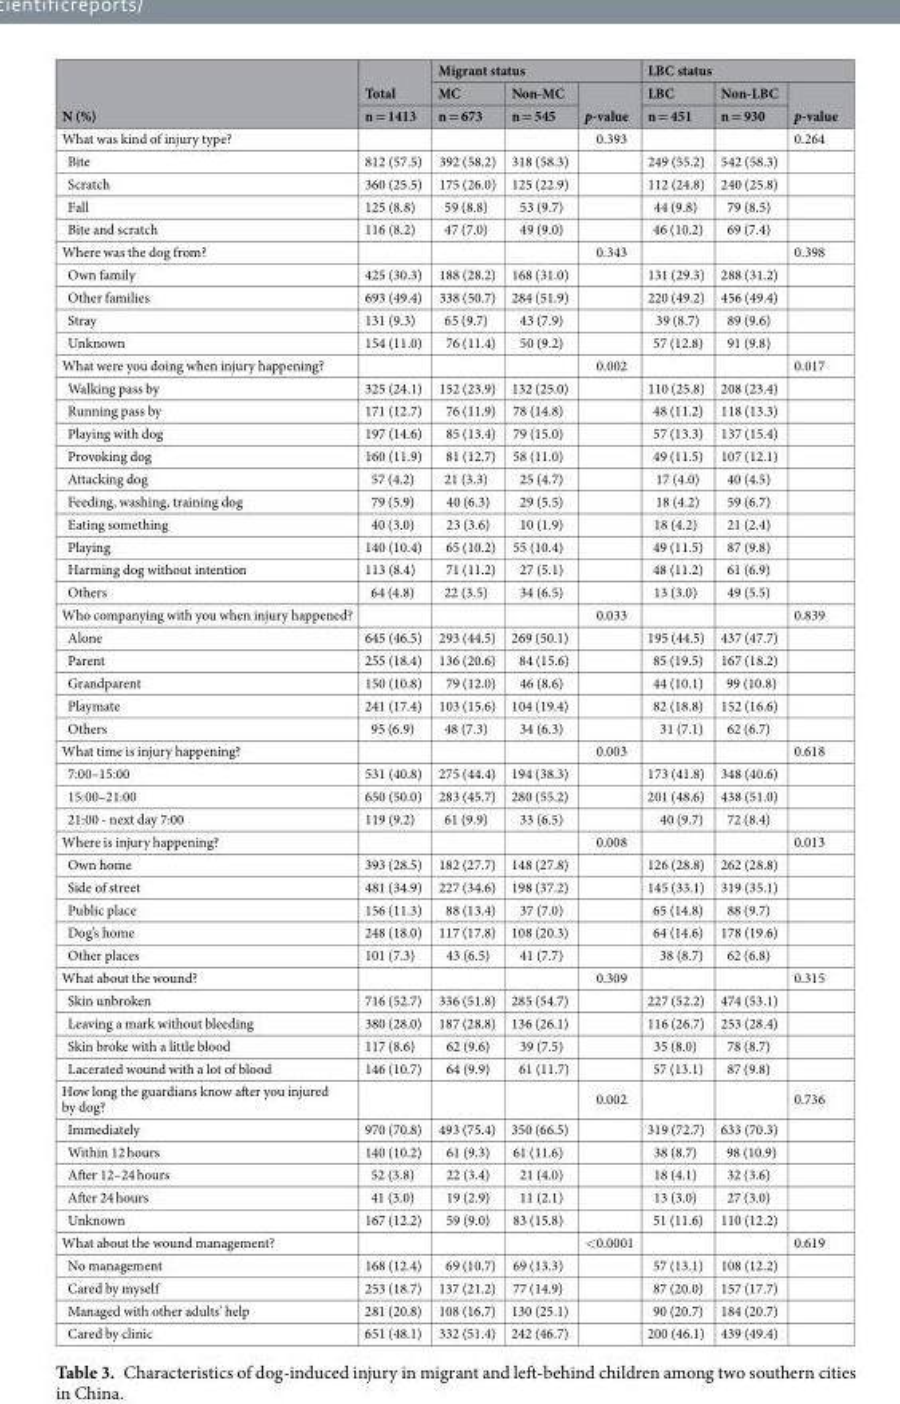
<table><thead><tr><td rowspan="3">N (%)</td><td rowspan="3">Total n = 1413</td><td colspan="3">Migrant status</td><td colspan="3">LBC status</td></tr><tr><td rowspan="2">MC n = 673</td><td rowspan="2">Non-MC n = 545</td><td rowspan="2">p-value</td><td rowspan="2">LBC n = 451</td><td rowspan="2">Non-LBC n = 930</td><td rowspan="2">p-value</td></tr><tr></tr></thead><tbody><tr><td>What was kind of injury type?</td><td></td><td></td><td></td><td>0.393</td><td></td><td></td><td>0.264</td></tr><tr><td>Bite</td><td>812 (57.5)</td><td>392 (58.2)</td><td>318 (58.3)</td><td></td><td>249 (55.2)</td><td>542 (58.3)</td><td></td></tr><tr><td>Scratch</td><td>360 (25.5)</td><td>175 (26.0)</td><td>125 (22.9)</td><td></td><td>112 (24.8)</td><td>240 (25.8)</td><td></td></tr><tr><td>Fall</td><td>125 (8.8)</td><td>59 (8.8)</td><td>53 (9.7)</td><td></td><td>44 (9.8)</td><td>79 (8.5)</td><td></td></tr><tr><td>Bite and scratch</td><td>116 (8.2)</td><td>47 (7.0)</td><td>49 (9.0)</td><td></td><td>46 (10.2)</td><td>69 (7.4)</td><td></td></tr><tr><td>Where was the dog from?</td><td></td><td></td><td></td><td>0.343</td><td></td><td></td><td>0.398</td></tr><tr><td>Own family</td><td>425 (30.3)</td><td>188 (28.2)</td><td>168 (31.0)</td><td></td><td>131 (29.3)</td><td>288 (31.2)</td><td></td></tr><tr><td>Other families</td><td>693 (49.4)</td><td>338 (50.7)</td><td>284 (51.9)</td><td></td><td>220 (49.2)</td><td>456 (49.4)</td><td></td></tr><tr><td>Stray</td><td>131 (9.3)</td><td>65 (9.7)</td><td>43 (7.9)</td><td></td><td>39 (8.7)</td><td>89 (9.6)</td><td></td></tr><tr><td>Unknown</td><td>154 (11.0)</td><td>76 (11.4)</td><td>50 (9.2)</td><td></td><td>57 (12.8)</td><td>91 (9.8)</td><td></td></tr><tr><td>What were you doing when injury happening?</td><td></td><td></td><td></td><td>0.002</td><td></td><td></td><td>0.017</td></tr><tr><td>Walking pass by</td><td>325 (24.1)</td><td>152 (23.9)</td><td>132 (25.0)</td><td></td><td>110 (25.8)</td><td>208 (23.4)</td><td></td></tr><tr><td>Running pass by</td><td>171 (12.7)</td><td>76 (11.9)</td><td>78 (14.8)</td><td></td><td>48 (11.2)</td><td>118 (13.3)</td><td></td></tr><tr><td>Playing with dog</td><td>197 (14.6)</td><td>85 (13.4)</td><td>79 (15.0)</td><td></td><td>57 (13.3)</td><td>137 (15.4)</td><td></td></tr><tr><td>Provoking dog</td><td>160 (11.9)</td><td>81 (12.7)</td><td>58 (11.0)</td><td></td><td>49 (11.5)</td><td>107 (12.1)</td><td></td></tr><tr><td>Attacking dog</td><td>57 (4.2)</td><td>21 (3.3)</td><td>25 (4.7)</td><td></td><td>17 (4.0)</td><td>40 (4.5)</td><td></td></tr><tr><td>Feeding, washing, training dog</td><td>79 (5.9)</td><td>40 (6.3)</td><td>29 (5.5)</td><td></td><td>18 (4.2)</td><td>59 (6.7)</td><td></td></tr><tr><td>Eating something</td><td>40 (3.0)</td><td>23 (3.6)</td><td>10 (1.9)</td><td></td><td>18 (4.2)</td><td>21 (2.4)</td><td></td></tr><tr><td>Playing</td><td>140 (10.4)</td><td>65 (10.2)</td><td>55 (10.4)</td><td></td><td>49 (11.5)</td><td>87 (9.8)</td><td></td></tr><tr><td>Harming dog without intention</td><td>113 (8.4)</td><td>71 (11.2)</td><td>27 (5.1)</td><td></td><td>48 (11.2)</td><td>61 (6.9)</td><td></td></tr><tr><td>Others</td><td>64 (4.8)</td><td>22 (3.5)</td><td>34 (6.5)</td><td></td><td>13 (3.0)</td><td>49 (5.5)</td><td></td></tr><tr><td>Who companying with you when injury happened?</td><td></td><td></td><td></td><td>0.033</td><td></td><td></td><td>0.839</td></tr><tr><td>Alone</td><td>645 (46.5)</td><td>293 (44.5)</td><td>269 (50.1)</td><td></td><td>195 (44.5)</td><td>437 (47.7)</td><td></td></tr><tr><td>Parent</td><td>255 (18.4)</td><td>136 (20.6)</td><td>84 (15.6)</td><td></td><td>85 (19.5)</td><td>167 (18.2)</td><td></td></tr><tr><td>Grandparent</td><td>150 (10.8)</td><td>79 (12.0)</td><td>46 (8.6)</td><td></td><td>44 (10.1)</td><td>99 (10.8)</td><td></td></tr><tr><td>Playmate</td><td>241 (17.4)</td><td>103 (15.6)</td><td>104 (19.4)</td><td></td><td>82 (18.8)</td><td>152 (16.6)</td><td></td></tr><tr><td>Others</td><td>95 (6.9)</td><td>48 (7.3)</td><td>34 (6.3)</td><td></td><td>31 (7.1)</td><td>62 (6.7)</td><td></td></tr><tr><td>What time is injury happening?</td><td></td><td></td><td></td><td>0.003</td><td></td><td></td><td>0.618</td></tr><tr><td>7:00–15:00</td><td>531 (40.8)</td><td>275 (44.4)</td><td>194 (38.3)</td><td></td><td>173 (41.8)</td><td>348 (40.6)</td><td></td></tr><tr><td>15:00–21:00</td><td>650 (50.0)</td><td>283 (45.7)</td><td>280 (55.2)</td><td></td><td>201 (48.6)</td><td>438 (51.0)</td><td></td></tr><tr><td>21:00 - next day 7:00</td><td>119 (9.2)</td><td>61 (9.9)</td><td>33 (6.5)</td><td></td><td>40 (9.7)</td><td>72 (8.4)</td><td></td></tr><tr><td>Where is injury happening?</td><td></td><td></td><td></td><td>0.008</td><td></td><td></td><td>0.013</td></tr><tr><td>Own home</td><td>393 (28.5)</td><td>182 (27.7)</td><td>148 (27.8)</td><td></td><td>126 (28.8)</td><td>262 (28.8)</td><td></td></tr><tr><td>Side of street</td><td>481 (34.9)</td><td>227 (34.6)</td><td>198 (37.2)</td><td></td><td>145 (33.1)</td><td>319 (35.1)</td><td></td></tr><tr><td>Public place</td><td>156 (11.3)</td><td>88 (13.4)</td><td>37 (7.0)</td><td></td><td>65 (14.8)</td><td>88 (9.7)</td><td></td></tr><tr><td>Dog’s home</td><td>248 (18.0)</td><td>117 (17.8)</td><td>108 (20.3)</td><td></td><td>64 (14.6)</td><td>178 (19.6)</td><td></td></tr><tr><td>Other places</td><td>101 (7.3)</td><td>43 (6.5)</td><td>41 (7.7)</td><td></td><td>38 (8.7)</td><td>62 (6.8)</td><td></td></tr><tr><td>What about the wound?</td><td></td><td></td><td></td><td>0.309</td><td></td><td></td><td>0.315</td></tr><tr><td>Skin unbroken</td><td>716 (52.7)</td><td>336 (51.8)</td><td>285 (54.7)</td><td></td><td>227 (52.2)</td><td>474 (53.1)</td><td></td></tr><tr><td>Leaving a mark without bleeding</td><td>380 (28.0)</td><td>187 (28.8)</td><td>136 (26.1)</td><td></td><td>116 (26.7)</td><td>253 (28.4)</td><td></td></tr><tr><td>Skin broke with a little blood</td><td>117 (8.6)</td><td>62 (9.6)</td><td>39 (7.5)</td><td></td><td>35 (8.0)</td><td>78 (8.7)</td><td></td></tr><tr><td>Lacerated wound with a lot of blood</td><td>146 (10.7)</td><td>64 (9.9)</td><td>61 (11.7)</td><td></td><td>57 (13.1)</td><td>87 (9.8)</td><td></td></tr><tr><td>How long the guardians know after you injured by dog?</td><td></td><td></td><td></td><td>0.002</td><td></td><td></td><td>0.736</td></tr><tr><td>Immediately</td><td>970 (70.8)</td><td>493 (75.4)</td><td>350 (66.5)</td><td></td><td>319 (72.7)</td><td>633 (70.3)</td><td></td></tr><tr><td>Within 12 hours</td><td>140 (10.2)</td><td>61 (9.3)</td><td>61 (11.6)</td><td></td><td>38 (8.7)</td><td>98 (10.9)</td><td></td></tr><tr><td>After 12–24 hours</td><td>52 (3.8)</td><td>22 (3.4)</td><td>21 (4.0)</td><td></td><td>18 (4.1)</td><td>32 (3.6)</td><td></td></tr><tr><td>After 24 hours</td><td>41 (3.0)</td><td>19 (2.9)</td><td>11 (2.1)</td><td></td><td>13 (3.0)</td><td>27 (3.0)</td><td></td></tr><tr><td>Unknown</td><td>167 (12.2)</td><td>59 (9.0)</td><td>83 (15.8)</td><td></td><td>51 (11.6)</td><td>110 (12.2)</td><td></td></tr><tr><td>What about the wound management?</td><td></td><td></td><td></td><td>&lt;0.0001</td><td></td><td></td><td>0.619</td></tr><tr><td>No management</td><td>168 (12.4)</td><td>69 (10.7)</td><td>69 (13.3)</td><td></td><td>57 (13.1)</td><td>108 (12.2)</td><td></td></tr><tr><td>Cared by myself</td><td>253 (18.7)</td><td>137 (21.2)</td><td>77 (14.9)</td><td></td><td>87 (20.0)</td><td>157 (17.7)</td><td></td></tr><tr><td>Managed with other adults’ help</td><td>281 (20.8)</td><td>108 (16.7)</td><td>130 (25.1)</td><td></td><td>90 (20.7)</td><td>184 (20.7)</td><td></td></tr><tr><td>Cared by clinic</td><td>651 (48.1)</td><td>332 (51.4)</td><td>242 (46.7)</td><td></td><td>200 (46.1)</td><td>439 (49.4)</td><td></td></tr></tbody></table>